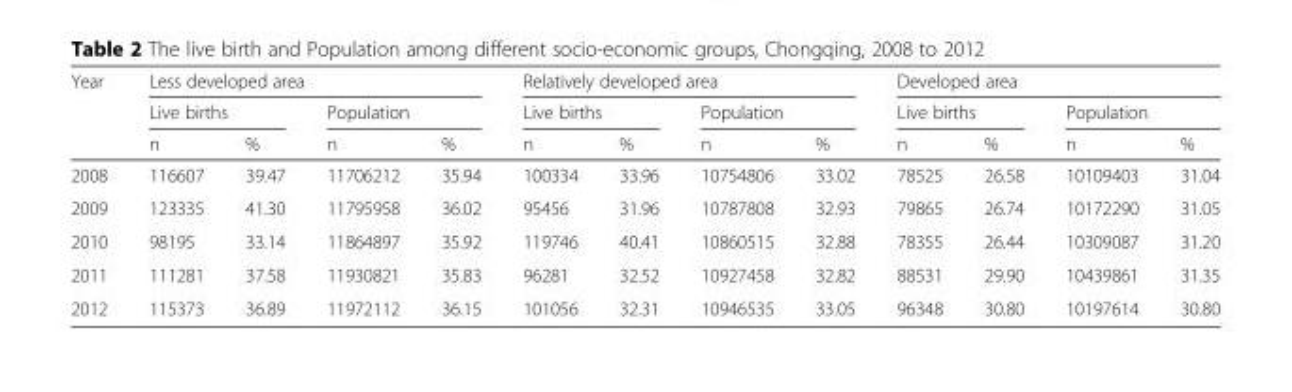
<table><thead><tr><td rowspan="3">Year</td><td colspan="4">Less developed area</td><td colspan="4">Relatively developed area</td><td colspan="4">Developed area</td></tr><tr><td colspan="2">Live births</td><td colspan="2">Population</td><td colspan="2">Live births</td><td colspan="2">Population</td><td colspan="2">Live births</td><td colspan="2">Population</td></tr><tr><td>n</td><td>%</td><td>n</td><td>%</td><td>n</td><td>%</td><td>n</td><td>%</td><td>n</td><td>%</td><td>n</td><td>%</td></tr></thead><tbody><tr><td>2008</td><td>116607</td><td>39.47</td><td>11706212</td><td>35.94</td><td>100334</td><td>33.96</td><td>10754806</td><td>33.02</td><td>78525</td><td>26.58</td><td>10109403</td><td>31.04</td></tr><tr><td>2009</td><td>123335</td><td>41.30</td><td>11795958</td><td>36.02</td><td>95456</td><td>31.96</td><td>10787808</td><td>32.93</td><td>79865</td><td>26.74</td><td>10172290</td><td>31.05</td></tr><tr><td>2010</td><td>98195</td><td>33.14</td><td>11864897</td><td>35.92</td><td>119746</td><td>40.41</td><td>10860515</td><td>32.88</td><td>78355</td><td>26.44</td><td>10309087</td><td>31.20</td></tr><tr><td>2011</td><td>111281</td><td>37.58</td><td>11930821</td><td>35.83</td><td>96281</td><td>32.52</td><td>10927458</td><td>32.82</td><td>88531</td><td>29.90</td><td>10439861</td><td>31.35</td></tr><tr><td>2012</td><td>115373</td><td>36.89</td><td>11972112</td><td>36.15</td><td>101056</td><td>32.31</td><td>10946535</td><td>33.05</td><td>96348</td><td>30.80</td><td>10197614</td><td>30.80</td></tr></tbody></table>